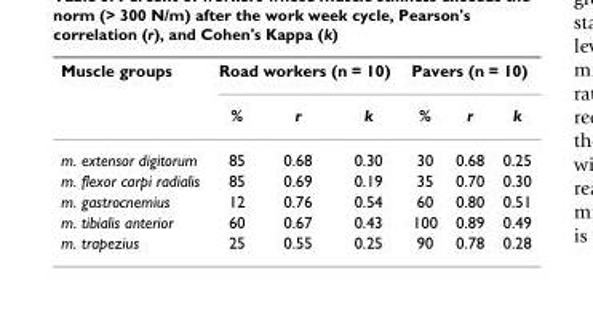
<table><thead><tr><td rowspan="2">Muscle groups</td><td colspan="3">Road workers (n = 10)</td><td colspan="3">Pavers (n = 10)</td></tr><tr><td>%</td><td>r</td><td>k</td><td>%</td><td>r</td><td>k</td></tr></thead><tbody><tr><td>m. extensor digitorum</td><td>85</td><td>0.68</td><td>0.30</td><td>30</td><td>0.68</td><td>0.25</td></tr><tr><td>m. flexor carpi radialis</td><td>85</td><td>0.69</td><td>0.19</td><td>35</td><td>0.70</td><td>0.30</td></tr><tr><td>m. gastrocnemius</td><td>12</td><td>0.76</td><td>0.54</td><td>60</td><td>0.80</td><td>0.51</td></tr><tr><td>m. tibialis anterior</td><td>60</td><td>0.67</td><td>0.43</td><td>100</td><td>0.89</td><td>0.49</td></tr><tr><td>m. trapezius</td><td>25</td><td>0.55</td><td>0.25</td><td>90</td><td>0.78</td><td>0.28</td></tr></tbody></table>